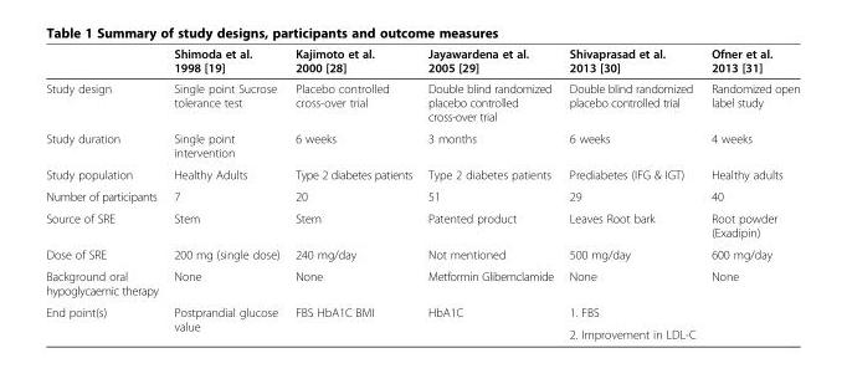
<table><thead><tr><td></td><td>Shimoda et al. 1998 [19]</td><td>Kajimoto et al. 2000 [28]</td><td>Jayawardena et al. 2005 [29]</td><td>Shivaprasad et al. 2013 [30]</td><td>Ofner et al. 2013 [31]</td></tr></thead><tbody><tr><td>Study design</td><td>Single point Sucrose tolerance test</td><td>Placebo controlled cross-over trial</td><td>Double blind randomized placebo controlled cross-over trial</td><td>Double blind randomized placebo controlled trial</td><td>Randomized open label study</td></tr><tr><td>Study duration</td><td>Single point intervention</td><td>6 weeks</td><td>3 months</td><td>6 weeks</td><td>4 weeks</td></tr><tr><td>Study population</td><td>Healthy Adults</td><td>Type 2 diabetes patients</td><td>Type 2 diabetes patients</td><td>Prediabetes (IFG &amp; IGT)</td><td>Healthy adults</td></tr><tr><td>Number of participants</td><td>7</td><td>20</td><td>51</td><td>29</td><td>40</td></tr><tr><td>Source of SRE</td><td>Stem</td><td>Stem</td><td>Patented product</td><td>Leaves Root bark</td><td>Root powder (Exadipin)</td></tr><tr><td>Dose of SRE</td><td>200 mg (single dose)</td><td>240 mg/day</td><td>Not mentioned</td><td>500 mg/day</td><td>600 mg/day</td></tr><tr><td>Background oral hypoglycaemic therapy</td><td>None</td><td>None</td><td>Metformin Glibemclamide</td><td>None</td><td>None</td></tr><tr><td rowspan="2">End point(s)</td><td rowspan="2">Postprandial glucose value</td><td rowspan="2">FBS HbA1C BMI</td><td rowspan="2">HbA1C</td><td>1. FBS</td><td rowspan="2"></td></tr><tr><td>2. Improvement in LDL-C</td></tr></tbody></table>